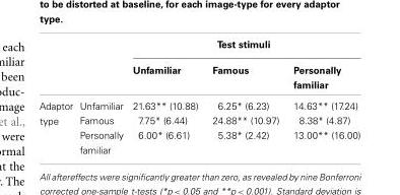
<table><thead><tr><td rowspan="2"></td><td rowspan="2"></td><td colspan="3">Test stimuli</td></tr><tr><td>Unfamiliar</td><td>Famous</td><td>Personally familiar</td></tr></thead><tbody><tr><td rowspan="3">Adaptor type</td><td>Unfamiliar</td><td>21.63** (10.88)</td><td>6.25* (6.23)</td><td>14.63** (17.24)</td></tr><tr><td>Famous</td><td>7.75* (6.44)</td><td>24.88** (10.97)</td><td>8.38* (4.87)</td></tr><tr><td>Personally familiar</td><td>6.00* (6.61)</td><td>5.38* (2.42)</td><td>13.00** (16.00)</td></tr></tbody></table>